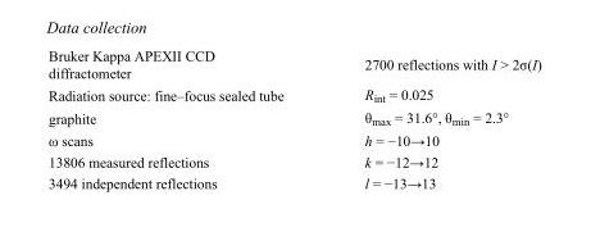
<table><tbody><tr><td>Bruker Kappa APEXII CCD diffractometer</td><td>2700 reflections with I &gt; 2σ(I)</td></tr><tr><td>Radiation source: fine–focus sealed tube</td><td>R<sub>int</sub> = 0.025</td></tr><tr><td>graphite</td><td>θ<sub>max</sub> = 31.6°, θ<sub>min</sub> = 2.3°</td></tr><tr><td>ω scans</td><td>h = −10→10</td></tr><tr><td>13806 measured reflections</td><td>k = −12→12</td></tr><tr><td>3494 independent reflections</td><td>l = −13→13</td></tr></tbody></table>